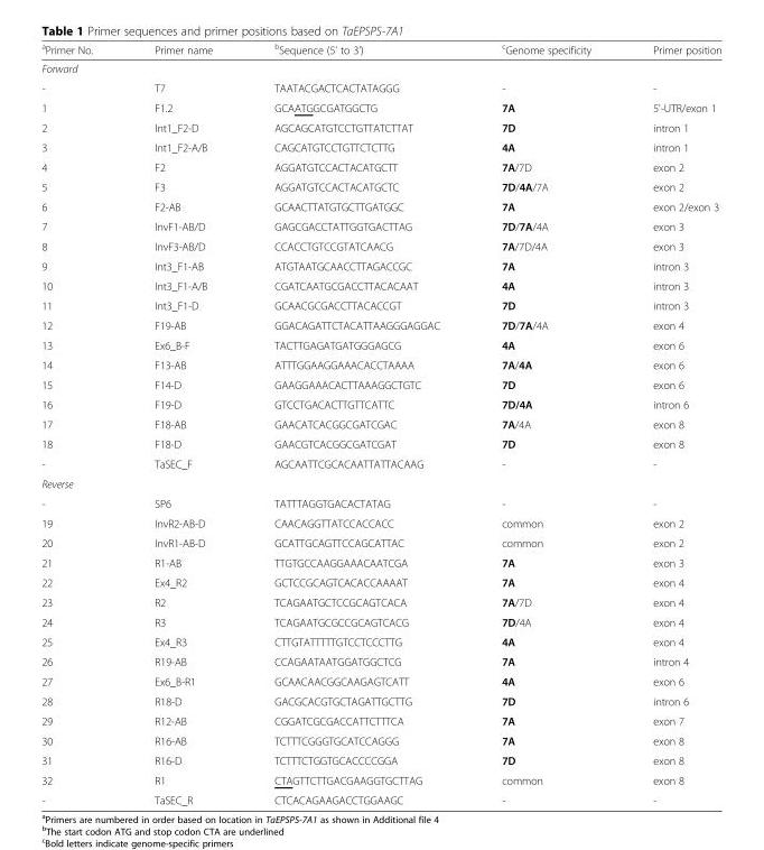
<table><thead><tr><td><sup>a</sup>Primer No.</td><td>Primer name</td><td><sup>b</sup>Sequence (5&#x27; to 3&#x27;)</td><td><sup>c</sup>Genome specificity</td><td>Primer position</td></tr></thead><tbody><tr><td colspan="5">Forward</td></tr><tr><td>-</td><td>T7</td><td>TAATACGACTCACTATAGGG</td><td>-</td><td>-</td></tr><tr><td>1</td><td>F1.2</td><td>GCAATGGCGATGGCTG</td><td>7A</td><td>5&#x27;-UTR/exon 1</td></tr><tr><td>2</td><td>Int1_F2-D</td><td>AGCAGCATGTCCTGTTATCTTAT</td><td>7D</td><td>intron 1</td></tr><tr><td>3</td><td>Int1_F2-A/B</td><td>CAGCATGTCCTGTTCTCTTG</td><td>4A</td><td>intron 1</td></tr><tr><td>4</td><td>F2</td><td>AGGATGTCCACTACATGCTT</td><td>7A/7D</td><td>exon 2</td></tr><tr><td>5</td><td>F3</td><td>AGGATGTCCACTACATGCTC</td><td>7D/4A/7A</td><td>exon 2</td></tr><tr><td>6</td><td>F2-AB</td><td>GCAACTTATGTGCTTGATGGC</td><td>7A</td><td>exon 2/exon 3</td></tr><tr><td>7</td><td>InvF1-AB/D</td><td>GAGCGACCTATTGGTGACTTAG</td><td>7D/7A/4A</td><td>exon 3</td></tr><tr><td>8</td><td>InvF3-AB/D</td><td>CCACCTGTCCGTATCAACG</td><td>7A/7D/4A</td><td>exon 3</td></tr><tr><td>9</td><td>Int3_F1-AB</td><td>ATGTAATGCAACCTTAGACCGC</td><td>7A</td><td>intron 3</td></tr><tr><td>10</td><td>Int3_F1-A/B</td><td>CGATCAATGCGACCTTACACAAT</td><td>4A</td><td>intron 3</td></tr><tr><td>11</td><td>Int3_F1-D</td><td>GCAACGCGACCTTACACCGT</td><td>7D</td><td>intron 3</td></tr><tr><td>12</td><td>F19-AB</td><td>GGACAGATTCTACATTAAGGGAGGAC</td><td>7D/7A/4A</td><td>exon 4</td></tr><tr><td>13</td><td>Ex6_B-F</td><td>TACTTGAGATGATGGGAGCG</td><td>4A</td><td>exon 6</td></tr><tr><td>14</td><td>F13-AB</td><td>ATTTGGAAGGAAACACCTAAAA</td><td>7A/4A</td><td>exon 6</td></tr><tr><td>15</td><td>F14-D</td><td>GAAGGAAACACTTAAAGGCTGTC</td><td>7D</td><td>exon 6</td></tr><tr><td>16</td><td>F19-D</td><td>GTCCTGACACTTGTTCATTC</td><td>7D/4A</td><td>intron 6</td></tr><tr><td>17</td><td>F18-AB</td><td>GAACATCACGGCGATCGAC</td><td>7A/4A</td><td>exon 8</td></tr><tr><td>18</td><td>F18-D</td><td>GAACGTCACGGCGATCGAT</td><td>7D</td><td>exon 8</td></tr><tr><td>-</td><td>TaSEC_F</td><td>AGCAATTCGCACAATTATTACAAG</td><td>-</td><td>-</td></tr><tr><td colspan="5">Reverse</td></tr><tr><td>-</td><td>SP6</td><td>TATTTAGGTGACACTATAG</td><td>-</td><td>-</td></tr><tr><td>19</td><td>InvR2-AB-D</td><td>CAACAGGTTATCCACCACC</td><td>common</td><td>exon 2</td></tr><tr><td>20</td><td>InvR1-AB-D</td><td>GCATTGCAGTTCCAGCATTAC</td><td>common</td><td>exon 2</td></tr><tr><td>21</td><td>R1-AB</td><td>TTGTGCCAAGGAAACAATCGA</td><td>7A</td><td>exon 3</td></tr><tr><td>22</td><td>Ex4_R2</td><td>GCTCCGCAGTCACACCAAAAT</td><td>7A</td><td>exon 4</td></tr><tr><td>23</td><td>R2</td><td>TCAGAATGCTCCGCAGTCACA</td><td>7A/7D</td><td>exon 4</td></tr><tr><td>24</td><td>R3</td><td>TCAGAATGCGCCGCAGTCACG</td><td>7D/4A</td><td>exon 4</td></tr><tr><td>25</td><td>Ex4_R3</td><td>CTTGTATTTTTGTCCTCCCTTG</td><td>4A</td><td>exon 4</td></tr><tr><td>26</td><td>R19-AB</td><td>CCAGAATAATGGATGGCTCG</td><td>7A</td><td>intron 4</td></tr><tr><td>27</td><td>Ex6_B-R1</td><td>GCAACAACGGCAAGAGTCATT</td><td>4A</td><td>exon 6</td></tr><tr><td>28</td><td>R18-D</td><td>GACGCACGTGCTAGATTGCTTG</td><td>7D</td><td>intron 6</td></tr><tr><td>29</td><td>R12-AB</td><td>CGGATCGCGACCATTCTTTCA</td><td>7A</td><td>exon 7</td></tr><tr><td>30</td><td>R16-AB</td><td>TCTTTCGGGTGCATCCAGGG</td><td>7A</td><td>exon 8</td></tr><tr><td>31</td><td>R16-D</td><td>TCTTTCTGGTGCACCCCGGA</td><td>7D</td><td>exon 8</td></tr><tr><td>32</td><td>R1</td><td>CTAGTTCTTGACGAAGGTGCTTAG</td><td>common</td><td>exon 8</td></tr><tr><td>-</td><td>TaSEC_R</td><td>CTCACAGAAGACCTGGAAGC</td><td>-</td><td>-</td></tr></tbody></table>